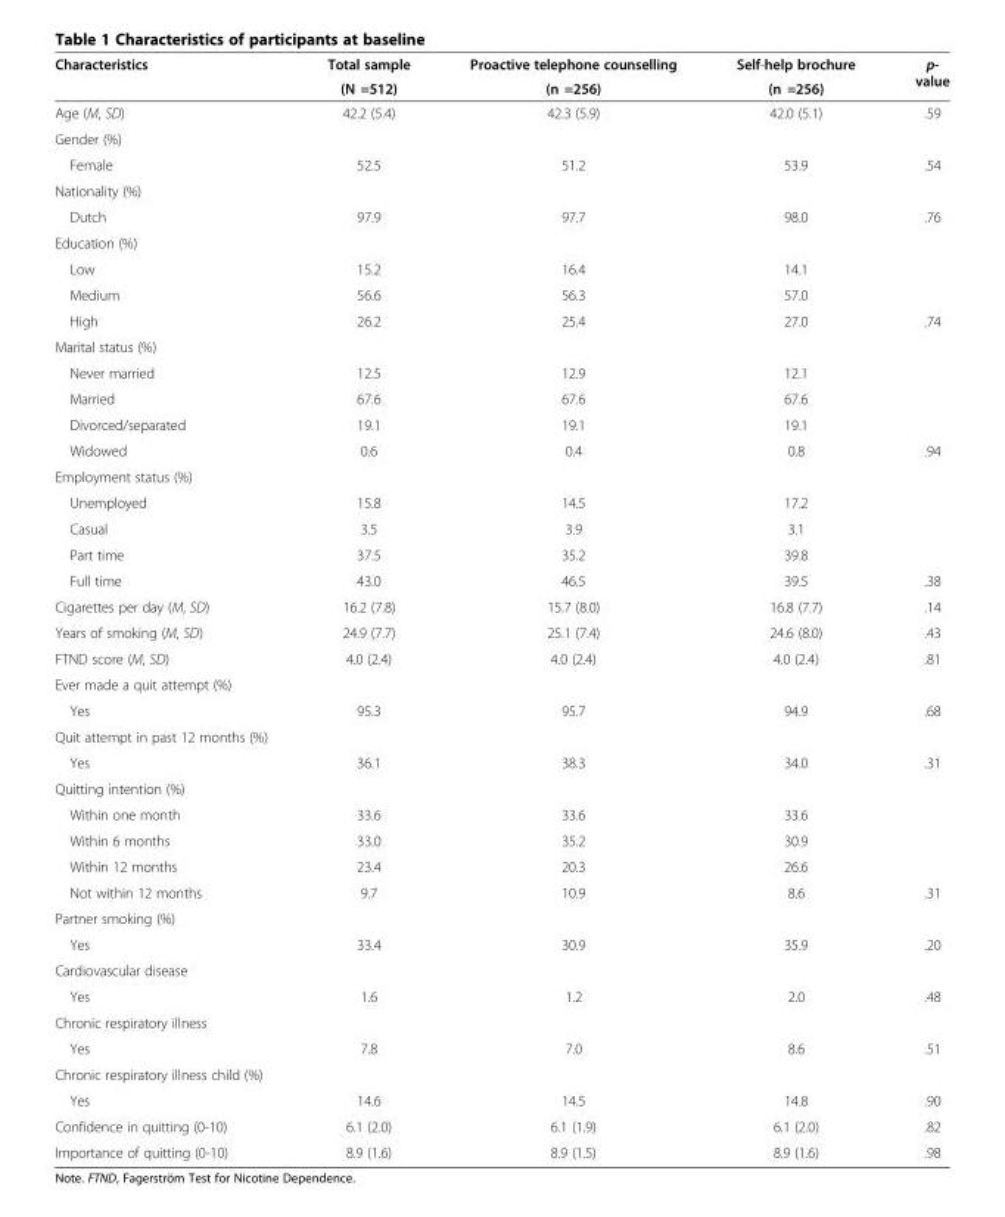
<table><thead><tr><td rowspan="2">Characteristics</td><td rowspan="2">Total sample (N =512)</td><td rowspan="2">Proactive telephone counselling (n =256)</td><td rowspan="2">Self-help brochure (n =256)</td><td rowspan="2">p- value</td></tr><tr></tr></thead><tbody><tr><td>Age (M, SD)</td><td>42.2 (5.4)</td><td>42.3 (5.9)</td><td>42.0 (5.1)</td><td>.59</td></tr><tr><td colspan="5">Gender (%)</td></tr><tr><td>Female</td><td>52.5</td><td>51.2</td><td>53.9</td><td>.54</td></tr><tr><td colspan="5">Nationality (%)</td></tr><tr><td>Dutch</td><td>97.9</td><td>97.7</td><td>98.0</td><td>.76</td></tr><tr><td colspan="5">Education (%)</td></tr><tr><td>Low</td><td>15.2</td><td>16.4</td><td>14.1</td><td></td></tr><tr><td>Medium</td><td>56.6</td><td>56.3</td><td>57.0</td><td></td></tr><tr><td>High</td><td>26.2</td><td>25.4</td><td>27.0</td><td>.74</td></tr><tr><td colspan="5">Marital status (%)</td></tr><tr><td>Never married</td><td>12.5</td><td>12.9</td><td>12.1</td><td></td></tr><tr><td>Married</td><td>67.6</td><td>67.6</td><td>67.6</td><td></td></tr><tr><td>Divorced/separated</td><td>19.1</td><td>19.1</td><td>19.1</td><td></td></tr><tr><td>Widowed</td><td>0.6</td><td>0.4</td><td>0.8</td><td>.94</td></tr><tr><td colspan="5">Employment status (%)</td></tr><tr><td>Unemployed</td><td>15.8</td><td>14.5</td><td>17.2</td><td></td></tr><tr><td>Casual</td><td>3.5</td><td>3.9</td><td>3.1</td><td></td></tr><tr><td>Part time</td><td>37.5</td><td>35.2</td><td>39.8</td><td></td></tr><tr><td>Full time</td><td>43.0</td><td>46.5</td><td>39.5</td><td>.38</td></tr><tr><td>Cigarettes per day (M, SD)</td><td>16.2 (7.8)</td><td>15.7 (8.0)</td><td>16.8 (7.7)</td><td>.14</td></tr><tr><td>Years of smoking (M, SD)</td><td>24.9 (7.7)</td><td>25.1 (7.4)</td><td>24.6 (8.0)</td><td>.43</td></tr><tr><td>FTND score (M, SD)</td><td>4.0 (2.4)</td><td>4.0 (2.4)</td><td>4.0 (2.4)</td><td>.81</td></tr><tr><td colspan="5">Ever made a quit attempt (%)</td></tr><tr><td>Yes</td><td>95.3</td><td>95.7</td><td>94.9</td><td>.68</td></tr><tr><td colspan="5">Quit attempt in past 12 months (%)</td></tr><tr><td>Yes</td><td>36.1</td><td>38.3</td><td>34.0</td><td>.31</td></tr><tr><td colspan="5">Quitting intention (%)</td></tr><tr><td>Within one month</td><td>33.6</td><td>33.6</td><td>33.6</td><td></td></tr><tr><td>Within 6 months</td><td>33.0</td><td>35.2</td><td>30.9</td><td></td></tr><tr><td>Within 12 months</td><td>23.4</td><td>20.3</td><td>26.6</td><td></td></tr><tr><td>Not within 12 months</td><td>9.7</td><td>10.9</td><td>8.6</td><td>.31</td></tr><tr><td colspan="5">Partner smoking (%)</td></tr><tr><td>Yes</td><td>33.4</td><td>30.9</td><td>35.9</td><td>.20</td></tr><tr><td colspan="5">Cardiovascular disease</td></tr><tr><td>Yes</td><td>1.6</td><td>1.2</td><td>2.0</td><td>.48</td></tr><tr><td colspan="5">Chronic respiratory illness</td></tr><tr><td>Yes</td><td>7.8</td><td>7.0</td><td>8.6</td><td>.51</td></tr><tr><td colspan="5">Chronic respiratory illness child (%)</td></tr><tr><td>Yes</td><td>14.6</td><td>14.5</td><td>14.8</td><td>.90</td></tr><tr><td>Confidence in quitting (0-10)</td><td>6.1 (2.0)</td><td>6.1 (1.9)</td><td>6.1 (2.0)</td><td>.82</td></tr><tr><td>Importance of quitting (0-10)</td><td>8.9 (1.6)</td><td>8.9 (1.5)</td><td>8.9 (1.6)</td><td>.98</td></tr></tbody></table>